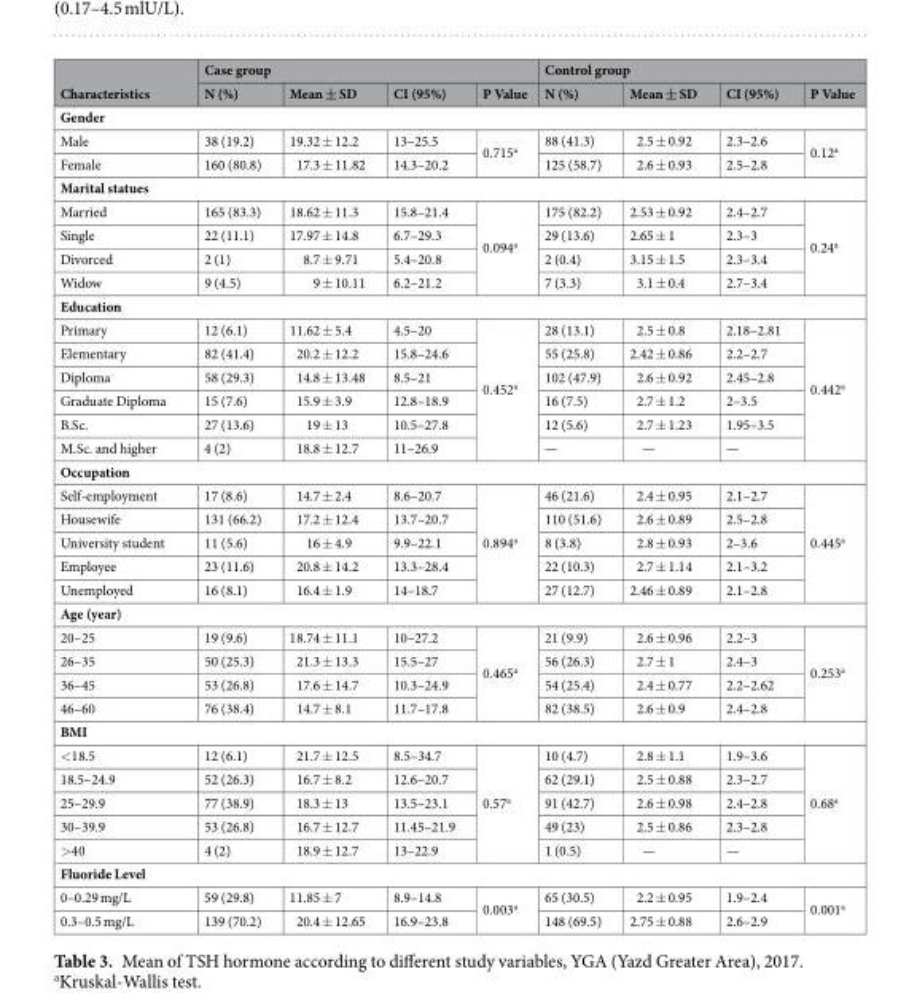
<table><thead><tr><td rowspan="2">Characteristics</td><td colspan="4">Case group</td><td colspan="4">Control group</td></tr><tr><td>N (%)</td><td>Mean ± SD</td><td>CI (95%)</td><td>P Value</td><td>N (%)</td><td>Mean ± SD</td><td>CI (95%)</td><td>P Value</td></tr></thead><tbody><tr><td colspan="9">Gender</td></tr><tr><td>Male</td><td>38 (19.2)</td><td>19.32 ± 12.2</td><td>13–25.5</td><td rowspan="2">0.715<sup>a</sup></td><td>88 (41.3)</td><td>2.5 ± 0.92</td><td>2.3–2.6</td><td rowspan="2">0.12<sup>a</sup></td></tr><tr><td>Female</td><td>160 (80.8)</td><td>17.3 ± 11.82</td><td>14.3–20.2</td><td>125 (58.7)</td><td>2.6 ± 0.93</td><td>2.5–2.8</td></tr><tr><td colspan="9">Marital statues</td></tr><tr><td>Married</td><td>165 (83.3)</td><td>18.62 ± 11.3</td><td>15.8–21.4</td><td rowspan="4">0.094<sup>a</sup></td><td>175 (82.2)</td><td>2.53 ± 0.92</td><td>2.4–2.7</td><td rowspan="4">0.24<sup>a</sup></td></tr><tr><td>Single</td><td>22 (11.1)</td><td>17.97 ± 14.8</td><td>6.7–29.3</td><td>29 (13.6)</td><td>2.65 ± 1</td><td>2.3–3</td></tr><tr><td>Divorced</td><td>2 (1)</td><td>8.7 ± 9.71</td><td>5.4–20.8</td><td>2 (0.4)</td><td>3.15 ± 1.5</td><td>2.3–3.4</td></tr><tr><td>Widow</td><td>9 (4.5)</td><td>9 ± 10.11</td><td>6.2–21.2</td><td>7 (3.3)</td><td>3.1 ± 0.4</td><td>2.7–3.4</td></tr><tr><td colspan="9">Education</td></tr><tr><td>Primary</td><td>12 (6.1)</td><td>11.62 ± 5.4</td><td>4.5–20</td><td rowspan="6">0.452<sup>a</sup></td><td>28 (13.1)</td><td>2.5 ± 0.8</td><td>2.18–2.81</td><td rowspan="6">0.442<sup>a</sup></td></tr><tr><td>Elementary</td><td>82 (41.4)</td><td>20.2 ± 12.2</td><td>15.8–24.6</td><td>55 (25.8)</td><td>2.42 ± 0.86</td><td>2.2–2.7</td></tr><tr><td>Diploma</td><td>58 (29.3)</td><td>14.8 ± 13.48</td><td>8.5–21</td><td>102 (47.9)</td><td>2.6 ± 0.92</td><td>2.45–2.8</td></tr><tr><td>Graduate Diploma</td><td>15 (7.6)</td><td>15.9 ± 3.9</td><td>12.8–18.9</td><td>16 (7.5)</td><td>2.7 ± 1.2</td><td>2–3.5</td></tr><tr><td>B.Sc.</td><td>27 (13.6)</td><td>19 ± 13</td><td>10.5–27.8</td><td>12 (5.6)</td><td>2.7 ± 1.23</td><td>1.95–3.5</td></tr><tr><td>M.Sc. and higher</td><td>4 (2)</td><td>18.8 ± 12.7</td><td>11–26.9</td><td>—</td><td>—</td><td>—</td></tr><tr><td colspan="9">Occupation</td></tr><tr><td>Self-employment</td><td>17 (8.6)</td><td>14.7 ± 2.4</td><td>8.6–20.7</td><td rowspan="5">0.894<sup>a</sup></td><td>46 (21.6)</td><td>2.4 ± 0.95</td><td>2.1–2.7</td><td rowspan="5">0.445<sup>a</sup></td></tr><tr><td>Housewife</td><td>131 (66.2)</td><td>17.2 ± 12.4</td><td>13.7–20.7</td><td>110 (51.6)</td><td>2.6 ± 0.89</td><td>2.5–2.8</td></tr><tr><td>University student</td><td>11 (5.6)</td><td>16 ± 4.9</td><td>9.9–22.1</td><td>8 (3.8)</td><td>2.8 ± 0.93</td><td>2–3.6</td></tr><tr><td>Employee</td><td>23 (11.6)</td><td>20.8 ± 14.2</td><td>13.3–28.4</td><td>22 (10.3)</td><td>2.7 ± 1.14</td><td>2.1–3.2</td></tr><tr><td>Unemployed</td><td>16 (8.1)</td><td>16.4 ± 1.9</td><td>14–18.7</td><td>27 (12.7)</td><td>2.46 ± 0.89</td><td>2.1–2.8</td></tr><tr><td colspan="9">Age (year)</td></tr><tr><td>20–25</td><td>19 (9.6)</td><td>18.74 ± 11.1</td><td>10–27.2</td><td rowspan="4">0.465<sup>a</sup></td><td>21 (9.9)</td><td>2.6 ± 0.96</td><td>2.2–3</td><td rowspan="4">0.253<sup>a</sup></td></tr><tr><td>26–35</td><td>50 (25.3)</td><td>21.3 ± 13.3</td><td>15.5–27</td><td>56 (26.3)</td><td>2.7 ± 1</td><td>2.4–3</td></tr><tr><td>36–45</td><td>53 (26.8)</td><td>17.6 ± 14.7</td><td>10.3–24.9</td><td>54 (25.4)</td><td>2.4 ± 0.77</td><td>2.2–2.62</td></tr><tr><td>46–60</td><td>76 (38.4)</td><td>14.7 ± 8.1</td><td>11.7–17.8</td><td>82 (38.5)</td><td>2.6 ± 0.9</td><td>2.4–2.8</td></tr><tr><td colspan="9">BMI</td></tr><tr><td>&lt;18.5</td><td>12 (6.1)</td><td>21.7 ± 12.5</td><td>8.5–34.7</td><td rowspan="5">0.57<sup>a</sup></td><td>10 (4.7)</td><td>2.8 ± 1.1</td><td>1.9–3.6</td><td rowspan="5">0.68<sup>a</sup></td></tr><tr><td>18.5–24.9</td><td>52 (26.3)</td><td>16.7 ± 8.2</td><td>12.6–20.7</td><td>62 (29.1)</td><td>2.5 ± 0.88</td><td>2.3–2.7</td></tr><tr><td>25–29.9</td><td>77 (38.9)</td><td>18.3 ± 13</td><td>13.5–23.1</td><td>91 (42.7)</td><td>2.6 ± 0.98</td><td>2.4–2.8</td></tr><tr><td>30–39.9</td><td>53 (26.8)</td><td>16.7 ± 12.7</td><td>11.45–21.9</td><td>49 (23)</td><td>2.5 ± 0.86</td><td>2.3–2.8</td></tr><tr><td>&gt;40</td><td>4 (2)</td><td>18.9 ± 12.7</td><td>13–22.9</td><td>1 (0.5)</td><td>—</td><td>—</td></tr><tr><td colspan="9">Fluoride Level</td></tr><tr><td>0–0.29 mg/L</td><td>59 (29.8)</td><td>11.85 ± 7</td><td>8.9–14.8</td><td rowspan="2">0.003<sup>a</sup></td><td>65 (30.5)</td><td>2.2 ± 0.95</td><td>1.9–2.4</td><td rowspan="2">0.001<sup>a</sup></td></tr><tr><td>0.3–0.5 mg/L</td><td>139 (70.2)</td><td>20.4 ± 12.65</td><td>16.9–23.8</td><td>148 (69.5)</td><td>2.75 ± 0.88</td><td>2.6–2.9</td></tr></tbody></table>